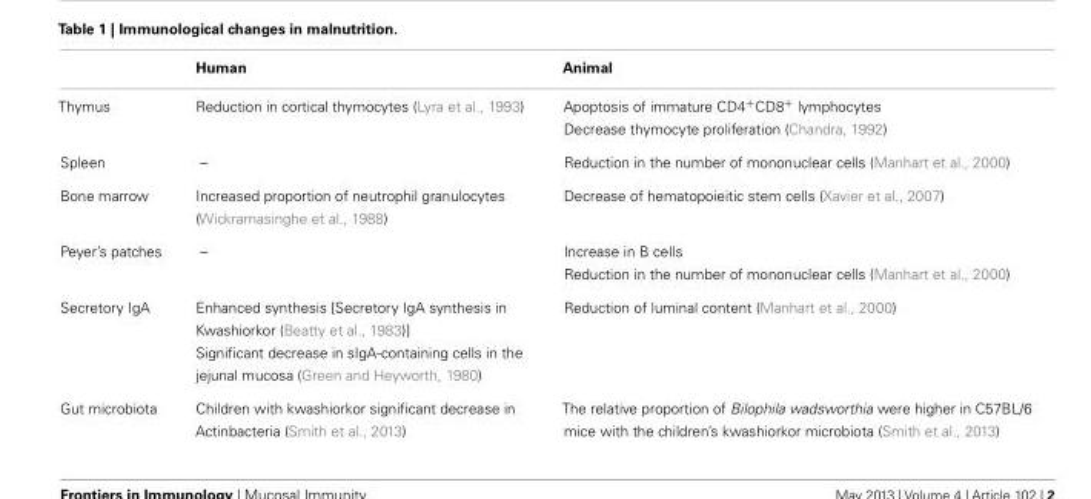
<table><thead><tr><td></td><td>Human</td><td>Animal</td></tr></thead><tbody><tr><td rowspan="2">Thymus</td><td>Reduction in cortical thymocytes (Lyra et al., 1993)</td><td>Apoptosis of immature CD4<sup>+</sup>CD8<sup>+</sup> lymphocytes</td></tr><tr><td></td><td>Decrease thymocyte proliferation (Chandra, 1992)</td></tr><tr><td>Spleen</td><td>–</td><td>Reduction in the number of mononuclear cells (Manhart et al., 2000)</td></tr><tr><td>Bone marrow</td><td>Increased proportion of neutrophil granulocytes (Wickramasinghe et al., 1988)</td><td>Decrease of hematopoieitic stem cells (Xavier et al., 2007)</td></tr><tr><td rowspan="2">Peyer’s patches</td><td>–</td><td>Increase in B cells</td></tr><tr><td></td><td>Reduction in the number of mononuclear cells (Manhart et al., 2000)</td></tr><tr><td rowspan="2">Secretory IgA</td><td>Enhanced synthesis [Secretory IgA synthesis in Kwashiorkor (Beatty et al., 1983)]</td><td>Reduction of luminal content (Manhart et al., 2000)</td></tr><tr><td>Significant decrease in sIgA-containing cells in the jejunal mucosa (Green and Heyworth, 1980)</td><td></td></tr><tr><td>Gut microbiota</td><td>Children with kwashiorkor significant decrease in Actinbacteria (Smith et al., 2013)</td><td>The relative proportion of Bilophila wadsworthia were higher in C57BL/6 mice with the children’s kwashiorkor microbiota (Smith et al., 2013)</td></tr></tbody></table>